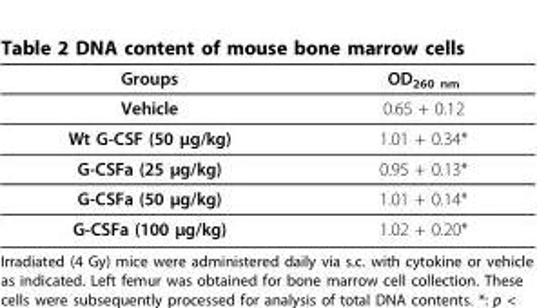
<table><thead><tr><td>Groups</td><td>OD<sub>260 nm</sub></td></tr></thead><tbody><tr><td>Vehicle</td><td>0.65 + 0.12</td></tr><tr><td>Wt G-CSF (50 μg/kg)</td><td>1.01 + 0.34*</td></tr><tr><td>G-CSFa (25 μg/kg)</td><td>0.95 + 0.13*</td></tr><tr><td>G-CSFa (50 μg/kg)</td><td>1.01 + 0.14*</td></tr><tr><td>G-CSFa (100 μg/kg)</td><td>1.02 + 0.20*</td></tr></tbody></table>